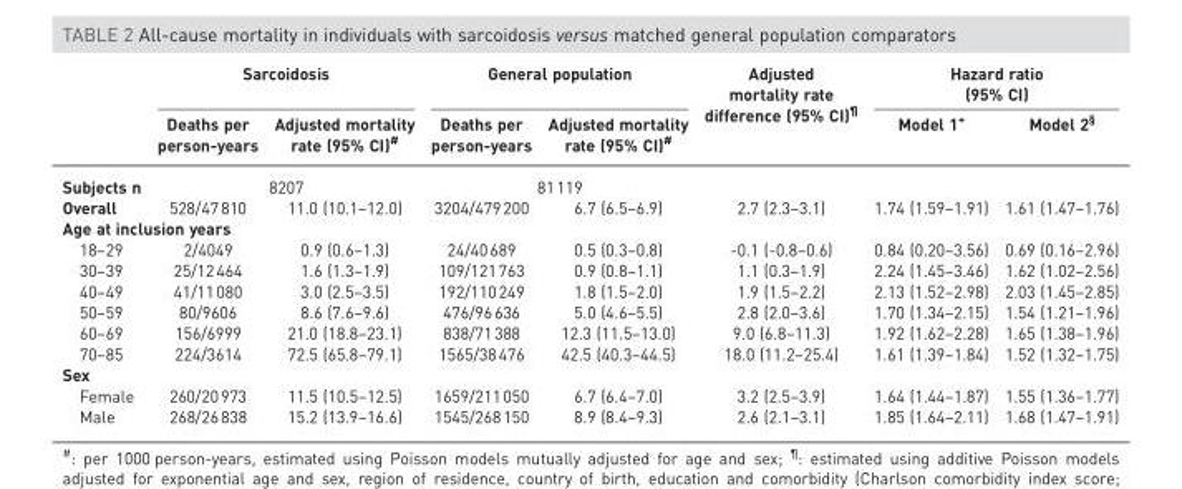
<table><thead><tr><td rowspan="2"></td><td colspan="2">Sarcoidosis</td><td colspan="2">General population</td><td rowspan="2">Adjusted mortality rate difference (95% CI)<sup>¶</sup></td><td colspan="2">Hazard ratio (95% CI)</td></tr><tr><td>Deaths per person-years</td><td>Adjusted mortality rate (95% CI)<sup>#</sup></td><td>Deaths per person-years</td><td>Adjusted mortality rate (95% CI)<sup>#</sup></td><td>Model 1<sup>+</sup></td><td>Model 2<sup>§</sup></td></tr></thead><tbody><tr><td>Subjects n</td><td colspan="2">8207</td><td colspan="2">81119</td><td></td><td></td><td></td></tr><tr><td>Overall</td><td>528/47810</td><td>11.0 (10.1–12.0)</td><td>3204/479200</td><td>6.7 (6.5–6.9)</td><td>2.7 (2.3–3.1)</td><td>1.74 (1.59–1.91)</td><td>1.61 (1.47–1.76)</td></tr><tr><td colspan="8">Age at inclusion years</td></tr><tr><td>18–29</td><td>2/4049</td><td>0.9 (0.6–1.3)</td><td>24/40689</td><td>0.5 (0.3–0.8)</td><td>-0.1 (-0.8–0.6)</td><td>0.84 (0.20–3.56)</td><td>0.69 (0.16–2.96)</td></tr><tr><td>30–39</td><td>25/12464</td><td>1.6 (1.3–1.9)</td><td>109/121763</td><td>0.9 (0.8–1.1)</td><td>1.1 (0.3–1.9)</td><td>2.24 (1.45–3.46)</td><td>1.62 (1.02–2.56)</td></tr><tr><td>40–49</td><td>41/11080</td><td>3.0 (2.5–3.5)</td><td>192/110249</td><td>1.8 (1.5–2.0)</td><td>1.9 (1.5–2.2)</td><td>2.13 (1.52–2.98)</td><td>2.03 (1.45–2.85)</td></tr><tr><td>50–59</td><td>80/9606</td><td>8.6 (7.6–9.6)</td><td>476/96636</td><td>5.0 (4.6–5.5)</td><td>2.8 (2.0–3.6)</td><td>1.70 (1.34–2.15)</td><td>1.54 (1.21–1.96)</td></tr><tr><td>60–69</td><td>156/6999</td><td>21.0 (18.8–23.1)</td><td>838/71388</td><td>12.3 (11.5–13.0)</td><td>9.0 (6.8–11.3)</td><td>1.92 (1.62–2.28)</td><td>1.65 (1.38–1.96)</td></tr><tr><td>70–85</td><td>224/3614</td><td>72.5 (65.8–79.1)</td><td>1565/38476</td><td>42.5 (40.3–44.5)</td><td>18.0 (11.2–25.4)</td><td>1.61 (1.39–1.84)</td><td>1.52 (1.32–1.75)</td></tr><tr><td colspan="8">Sex</td></tr><tr><td>Female</td><td>260/20973</td><td>11.5 (10.5–12.5)</td><td>1659/211050</td><td>6.7 (6.4–7.0)</td><td>3.2 (2.5–3.9)</td><td>1.64 (1.44–1.87)</td><td>1.55 (1.36–1.77)</td></tr><tr><td>Male</td><td>268/26838</td><td>15.2 (13.9–16.6)</td><td>1545/268150</td><td>8.9 (8.4–9.3)</td><td>2.6 (2.1–3.1)</td><td>1.85 (1.64–2.11)</td><td>1.68 (1.47–1.91)</td></tr></tbody></table>